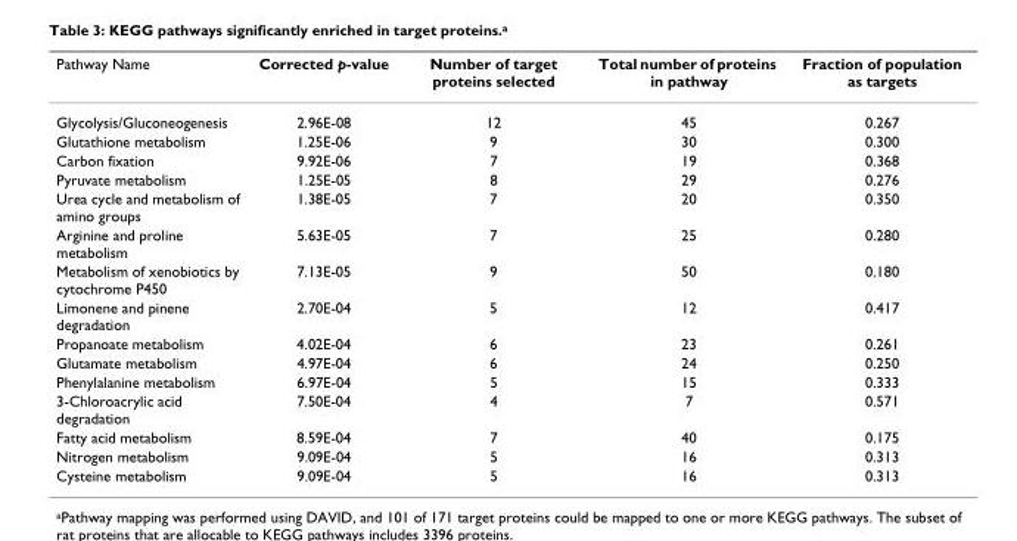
<table><thead><tr><td>Pathway Name</td><td>Corrected p-value</td><td>Number of target proteins selected</td><td>Total number of proteins in pathway</td><td>Fraction of population as targets</td></tr></thead><tbody><tr><td>Glycolysis/Gluconeogenesis</td><td>2.96E-08</td><td>12</td><td>45</td><td>0.267</td></tr><tr><td>Glutathione metabolism</td><td>1.25E-06</td><td>9</td><td>30</td><td>0.300</td></tr><tr><td>Carbon fixation</td><td>9.92E-06</td><td>7</td><td>19</td><td>0.368</td></tr><tr><td>Pyruvate metabolism</td><td>1.25E-05</td><td>8</td><td>29</td><td>0.276</td></tr><tr><td>Urea cycle and metabolism of amino groups</td><td>1.38E-05</td><td>7</td><td>20</td><td>0.350</td></tr><tr><td>Arginine and proline metabolism</td><td>5.63E-05</td><td>7</td><td>25</td><td>0.280</td></tr><tr><td>Metabolism of xenobiotics by cytochrome P450</td><td>7.13E-05</td><td>9</td><td>50</td><td>0.180</td></tr><tr><td>Limonene and pinene degradation</td><td>2.70E-04</td><td>5</td><td>12</td><td>0.417</td></tr><tr><td>Propanoate metabolism</td><td>4.02E-04</td><td>6</td><td>23</td><td>0.261</td></tr><tr><td>Glutamate metabolism</td><td>4.97E-04</td><td>6</td><td>24</td><td>0.250</td></tr><tr><td>Phenylalanine metabolism</td><td>6.97E-04</td><td>5</td><td>15</td><td>0.333</td></tr><tr><td>3-Chloroacrylic acid degradation</td><td>7.50E-04</td><td>4</td><td>7</td><td>0.571</td></tr><tr><td>Fatty acid metabolism</td><td>8.59E-04</td><td>7</td><td>40</td><td>0.175</td></tr><tr><td>Nitrogen metabolism</td><td>9.09E-04</td><td>5</td><td>16</td><td>0.313</td></tr><tr><td>Cysteine metabolism</td><td>9.09E-04</td><td>5</td><td>16</td><td>0.313</td></tr></tbody></table>